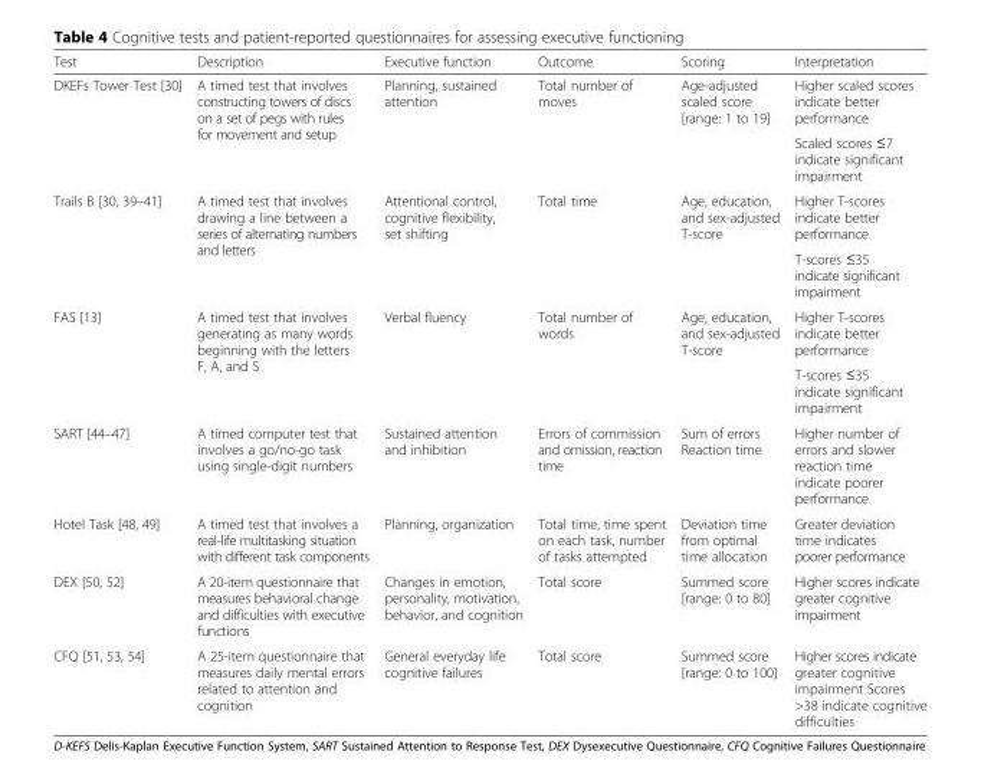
<table><thead><tr><td>Test</td><td>Description</td><td>Executive function</td><td>Outcome</td><td>Scoring</td><td>Interpretation</td></tr></thead><tbody><tr><td rowspan="2">DKEFs Tower Test [30]</td><td rowspan="2">A timed test that involves constructing towers of discs on a set of pegs with rules for movement and setup</td><td rowspan="2">Planning, sustained attention</td><td rowspan="2">Total number of moves</td><td rowspan="2">Age-adjusted scaled score [range: 1 to 19]</td><td>Higher scaled scores indicate better performance</td></tr><tr><td>Scaled scores ≤7 indicate significant impairment</td></tr><tr><td rowspan="2">Trails B [30, 39–41]</td><td rowspan="2">A timed test that involves drawing a line between a series of alternating numbers and letters</td><td rowspan="2">Attentional control, cognitive flexibility, set shifting</td><td rowspan="2">Total time</td><td rowspan="2">Age, education, and sex-adjusted T-score</td><td>Higher T-scores indicate better performance</td></tr><tr><td>T-scores ≤35 indicate significant impairment</td></tr><tr><td rowspan="2">FAS [13]</td><td rowspan="2">A timed test that involves generating as many words beginning with the letters F, A, and S</td><td rowspan="2">Verbal fluency</td><td rowspan="2">Total number of words</td><td rowspan="2">Age, education, and sex-adjusted T-score</td><td>Higher T-scores indicate better performance</td></tr><tr><td>T-scores ≤35 indicate significant impairment</td></tr><tr><td>SART [44–47]</td><td>A timed computer test that involves a go/no-go task using single-digit numbers</td><td>Sustained attention and inhibition</td><td>Errors of commission and omission, reaction time</td><td>Sum of errors Reaction time</td><td>Higher number of errors and slower reaction time indicate poorer performance</td></tr><tr><td>Hotel Task [48, 49]</td><td>A timed test that involves a real-life multitasking situation with different task components</td><td>Planning, organization</td><td>Total time, time spent on each task, number of tasks attempted</td><td>Deviation time from optimal time allocation</td><td>Greater deviation time indicates poorer performance</td></tr><tr><td>DEX [50, 52]</td><td>A 20-item questionnaire that measures behavioral change and difficulties with executive functions</td><td>Changes in emotion, personality, motivation, behavior, and cognition</td><td>Total score</td><td>Summed score [range: 0 to 80]</td><td>Higher scores indicate greater cognitive impairment</td></tr><tr><td>CFQ [51, 53, 54]</td><td>A 25-item questionnaire that measures daily mental errors related to attention and cognition</td><td>General everyday life cognitive failures</td><td>Total score</td><td>Summed score [range: 0 to 100]</td><td>Higher scores indicate greater cognitive impairment Scores &gt;38 indicate cognitive difficulties</td></tr></tbody></table>